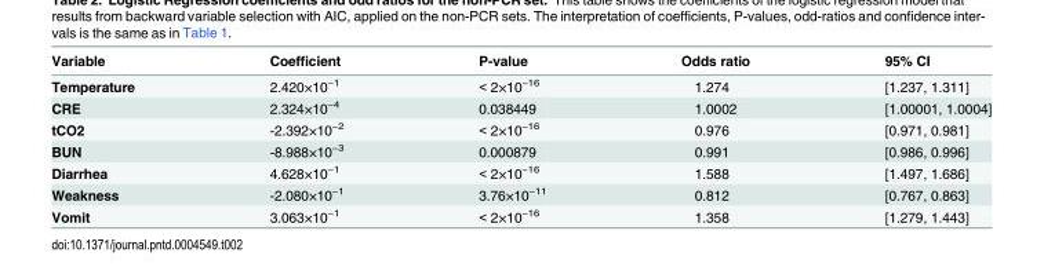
<table><thead><tr><td>Variable</td><td>Coefficient</td><td>P-value</td><td>Odds ratio</td><td>95% CI</td></tr></thead><tbody><tr><td>Temperature</td><td>2.420×10<sup>−1</sup></td><td>&lt; 2×10<sup>−16</sup></td><td>1.274</td><td>[1.237, 1.311]</td></tr><tr><td>CRE</td><td>2.324×10<sup>−4</sup></td><td>0.038449</td><td>1.0002</td><td>[1.00001, 1.0004]</td></tr><tr><td>tCO2</td><td>-2.392×10<sup>−2</sup></td><td>&lt; 2×10<sup>−16</sup></td><td>0.976</td><td>[0.971, 0.981]</td></tr><tr><td>BUN</td><td>-8.988×10<sup>−3</sup></td><td>0.000879</td><td>0.991</td><td>[0.986, 0.996]</td></tr><tr><td>Diarrhea</td><td>4.628×10<sup>−1</sup></td><td>&lt; 2×10<sup>−16</sup></td><td>1.588</td><td>[1.497, 1.686]</td></tr><tr><td>Weakness</td><td>-2.080×10<sup>−1</sup></td><td>3.76×10<sup>−11</sup></td><td>0.812</td><td>[0.767, 0.863]</td></tr><tr><td>Vomit</td><td>3.063×10<sup>−1</sup></td><td>&lt; 2×10<sup>−16</sup></td><td>1.358</td><td>[1.279, 1.443]</td></tr></tbody></table>